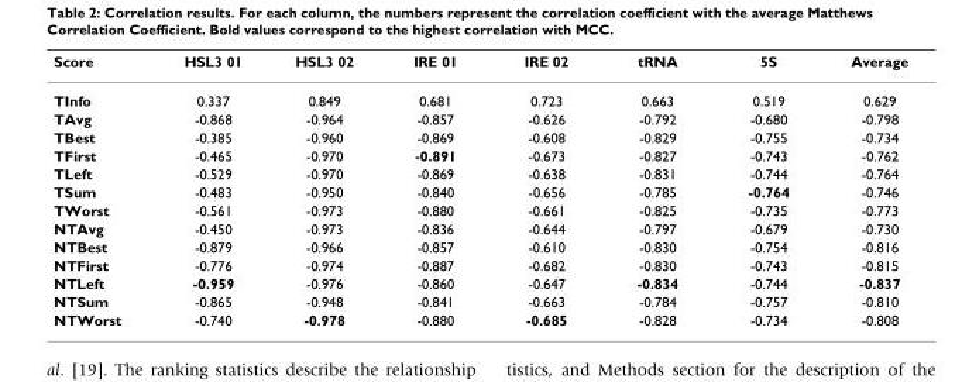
<table><thead><tr><td>Score</td><td>HSL3 01</td><td>HSL3 02</td><td>IRE 01</td><td>IRE 02</td><td>tRNA</td><td>5S</td><td>Average</td></tr></thead><tbody><tr><td>TInfo</td><td>0.337</td><td>0.849</td><td>0.681</td><td>0.723</td><td>0.663</td><td>0.519</td><td>0.629</td></tr><tr><td>TAvg</td><td>-0.868</td><td>-0.964</td><td>-0.857</td><td>-0.626</td><td>-0.792</td><td>-0.680</td><td>-0.798</td></tr><tr><td>TBest</td><td>-0.385</td><td>-0.960</td><td>-0.869</td><td>-0.608</td><td>-0.829</td><td>-0.755</td><td>-0.734</td></tr><tr><td>TFirst</td><td>-0.465</td><td>-0.970</td><td>-0.891</td><td>-0.673</td><td>-0.827</td><td>-0.743</td><td>-0.762</td></tr><tr><td>TLeft</td><td>-0.529</td><td>-0.970</td><td>-0.869</td><td>-0.638</td><td>-0.831</td><td>-0.744</td><td>-0.764</td></tr><tr><td>TSum</td><td>-0.483</td><td>-0.950</td><td>-0.840</td><td>-0.656</td><td>-0.785</td><td>-0.764</td><td>-0.746</td></tr><tr><td>TWorst</td><td>-0.561</td><td>-0.973</td><td>-0.880</td><td>-0.661</td><td>-0.825</td><td>-0.735</td><td>-0.773</td></tr><tr><td>NTAvg</td><td>-0.450</td><td>-0.973</td><td>-0.836</td><td>-0.644</td><td>-0.797</td><td>-0.679</td><td>-0.730</td></tr><tr><td>NTBest</td><td>-0.879</td><td>-0.966</td><td>-0.857</td><td>-0.610</td><td>-0.830</td><td>-0.754</td><td>-0.816</td></tr><tr><td>NTFirst</td><td>-0.776</td><td>-0.974</td><td>-0.887</td><td>-0.682</td><td>-0.830</td><td>-0.743</td><td>-0.815</td></tr><tr><td>NTLeft</td><td>-0.959</td><td>-0.976</td><td>-0.860</td><td>-0.647</td><td>-0.834</td><td>-0.744</td><td>-0.837</td></tr><tr><td>NTSum</td><td>-0.865</td><td>-0.948</td><td>-0.841</td><td>-0.663</td><td>-0.784</td><td>-0.757</td><td>-0.810</td></tr><tr><td>NTWorst</td><td>-0.740</td><td>-0.978</td><td>-0.880</td><td>-0.685</td><td>-0.828</td><td>-0.734</td><td>-0.808</td></tr></tbody></table>